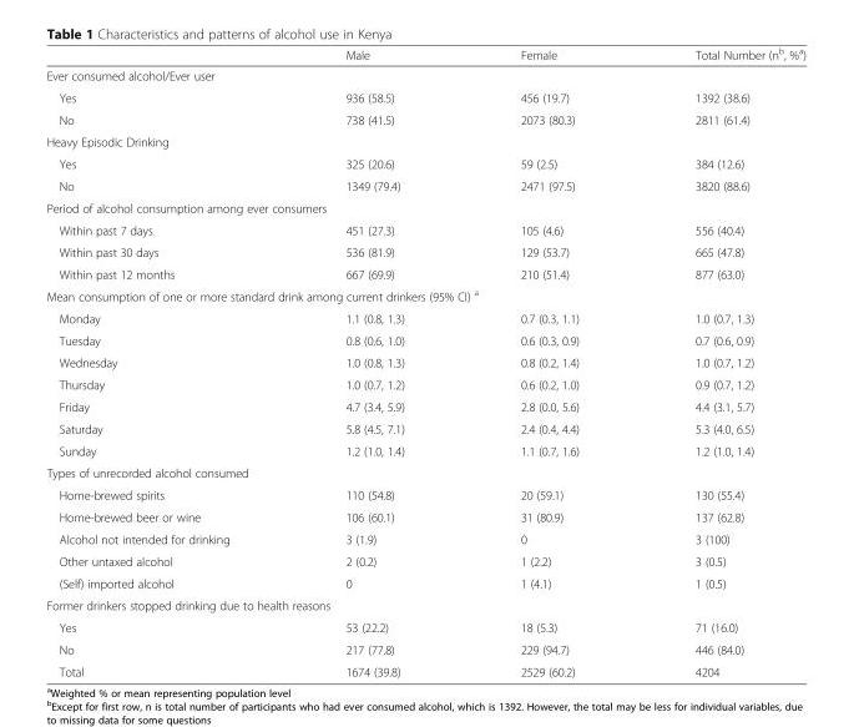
<table><thead><tr><td></td><td>Male</td><td>Female</td><td>Total Number (n<sup>b</sup>, %<sup>a</sup>)</td></tr></thead><tbody><tr><td colspan="4">Ever consumed alcohol/Ever user</td></tr><tr><td>Yes</td><td>936 (58.5)</td><td>456 (19.7)</td><td>1392 (38.6)</td></tr><tr><td>No</td><td>738 (41.5)</td><td>2073 (80.3)</td><td>2811 (61.4)</td></tr><tr><td colspan="4">Heavy Episodic Drinking</td></tr><tr><td>Yes</td><td>325 (20.6)</td><td>59 (2.5)</td><td>384 (12.6)</td></tr><tr><td>No</td><td>1349 (79.4)</td><td>2471 (97.5)</td><td>3820 (88.6)</td></tr><tr><td colspan="4">Period of alcohol consumption among ever consumers</td></tr><tr><td>Within past 7 days</td><td>451 (27.3)</td><td>105 (4.6)</td><td>556 (40.4)</td></tr><tr><td>Within past 30 days</td><td>536 (81.9)</td><td>129 (53.7)</td><td>665 (47.8)</td></tr><tr><td>Within past 12 months</td><td>667 (69.9)</td><td>210 (51.4)</td><td>877 (63.0)</td></tr><tr><td colspan="4">Mean consumption of one or more standard drink among current drinkers (95% CI) <sup>a</sup></td></tr><tr><td>Monday</td><td>1.1 (0.8, 1.3)</td><td>0.7 (0.3, 1.1)</td><td>1.0 (0.7, 1.3)</td></tr><tr><td>Tuesday</td><td>0.8 (0.6, 1.0)</td><td>0.6 (0.3, 0.9)</td><td>0.7 (0.6, 0.9)</td></tr><tr><td>Wednesday</td><td>1.0 (0.8, 1.3)</td><td>0.8 (0.2, 1.4)</td><td>1.0 (0.7, 1.2)</td></tr><tr><td>Thursday</td><td>1.0 (0.7, 1.2)</td><td>0.6 (0.2, 1.0)</td><td>0.9 (0.7, 1.2)</td></tr><tr><td>Friday</td><td>4.7 (3.4, 5.9)</td><td>2.8 (0.0, 5.6)</td><td>4.4 (3.1, 5.7)</td></tr><tr><td>Saturday</td><td>5.8 (4.5, 7.1)</td><td>2.4 (0.4, 4.4)</td><td>5.3 (4.0, 6.5)</td></tr><tr><td>Sunday</td><td>1.2 (1.0, 1.4)</td><td>1.1 (0.7, 1.6)</td><td>1.2 (1.0, 1.4)</td></tr><tr><td colspan="4">Types of unrecorded alcohol consumed</td></tr><tr><td>Home-brewed spirits</td><td>110 (54.8)</td><td>20 (59.1)</td><td>130 (55.4)</td></tr><tr><td>Home-brewed beer or wine</td><td>106 (60.1)</td><td>31 (80.9)</td><td>137 (62.8)</td></tr><tr><td>Alcohol not intended for drinking</td><td>3 (1.9)</td><td>0</td><td>3 (100)</td></tr><tr><td>Other untaxed alcohol</td><td>2 (0.2)</td><td>1 (2.2)</td><td>3 (0.5)</td></tr><tr><td>(Self) imported alcohol</td><td>0</td><td>1 (4.1)</td><td>1 (0.5)</td></tr><tr><td colspan="4">Former drinkers stopped drinking due to health reasons</td></tr><tr><td>Yes</td><td>53 (22.2)</td><td>18 (5.3)</td><td>71 (16.0)</td></tr><tr><td>No</td><td>217 (77.8)</td><td>229 (94.7)</td><td>446 (84.0)</td></tr><tr><td>Total</td><td>1674 (39.8)</td><td>2529 (60.2)</td><td>4204</td></tr></tbody></table>